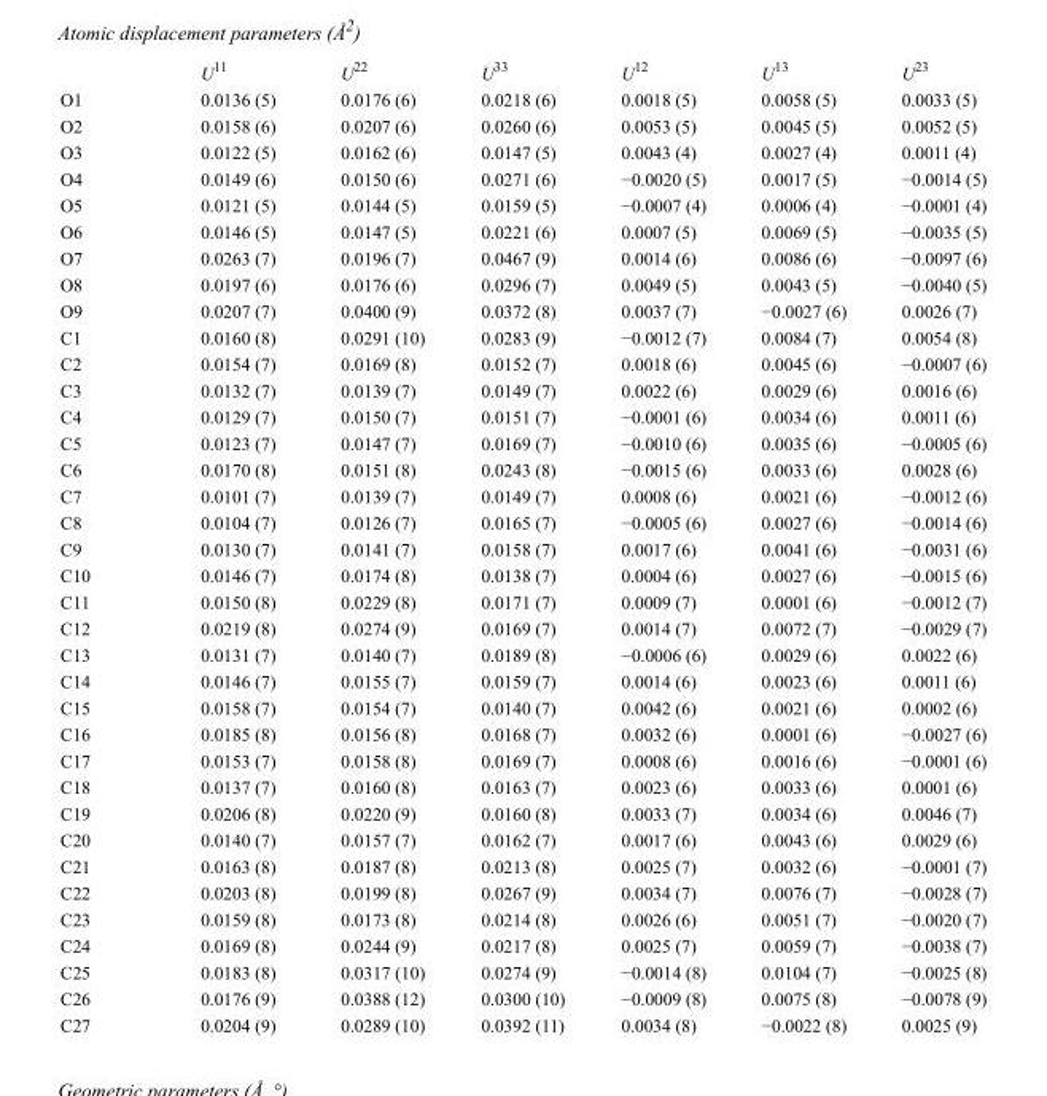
<table><thead><tr><td></td><td>U<sup>11</sup></td><td>U<sup>22</sup></td><td>U<sup>33</sup></td><td>U<sup>12</sup></td><td>U<sup>13</sup></td><td>U<sup>23</sup></td></tr></thead><tbody><tr><td>O1</td><td>0.0136 (5)</td><td>0.0176 (6)</td><td>0.0218 (6)</td><td>0.0018 (5)</td><td>0.0058 (5)</td><td>0.0033 (5)</td></tr><tr><td>O2</td><td>0.0158 (6)</td><td>0.0207 (6)</td><td>0.0260 (6)</td><td>0.0053 (5)</td><td>0.0045 (5)</td><td>0.0052 (5)</td></tr><tr><td>O3</td><td>0.0122 (5)</td><td>0.0162 (6)</td><td>0.0147 (5)</td><td>0.0043 (4)</td><td>0.0027 (4)</td><td>0.0011 (4)</td></tr><tr><td>O4</td><td>0.0149 (6)</td><td>0.0150 (6)</td><td>0.0271 (6)</td><td>−0.0020 (5)</td><td>0.0017 (5)</td><td>−0.0014 (5)</td></tr><tr><td>O5</td><td>0.0121 (5)</td><td>0.0144 (5)</td><td>0.0159 (5)</td><td>−0.0007 (4)</td><td>0.0006 (4)</td><td>−0.0001 (4)</td></tr><tr><td>O6</td><td>0.0146 (5)</td><td>0.0147 (5)</td><td>0.0221 (6)</td><td>0.0007 (5)</td><td>0.0069 (5)</td><td>−0.0035 (5)</td></tr><tr><td>O7</td><td>0.0263 (7)</td><td>0.0196 (7)</td><td>0.0467 (9)</td><td>0.0014 (6)</td><td>0.0086 (6)</td><td>−0.0097 (6)</td></tr><tr><td>O8</td><td>0.0197 (6)</td><td>0.0176 (6)</td><td>0.0296 (7)</td><td>0.0049 (5)</td><td>0.0043 (5)</td><td>−0.0040 (5)</td></tr><tr><td>O9</td><td>0.0207 (7)</td><td>0.0400 (9)</td><td>0.0372 (8)</td><td>0.0037 (7)</td><td>−0.0027 (6)</td><td>0.0026 (7)</td></tr><tr><td>C1</td><td>0.0160 (8)</td><td>0.0291 (10)</td><td>0.0283 (9)</td><td>−0.0012 (7)</td><td>0.0084 (7)</td><td>0.0054 (8)</td></tr><tr><td>C2</td><td>0.0154 (7)</td><td>0.0169 (8)</td><td>0.0152 (7)</td><td>0.0018 (6)</td><td>0.0045 (6)</td><td>−0.0007 (6)</td></tr><tr><td>C3</td><td>0.0132 (7)</td><td>0.0139 (7)</td><td>0.0149 (7)</td><td>0.0022 (6)</td><td>0.0029 (6)</td><td>0.0016 (6)</td></tr><tr><td>C4</td><td>0.0129 (7)</td><td>0.0150 (7)</td><td>0.0151 (7)</td><td>−0.0001 (6)</td><td>0.0034 (6)</td><td>0.0011 (6)</td></tr><tr><td>C5</td><td>0.0123 (7)</td><td>0.0147 (7)</td><td>0.0169 (7)</td><td>−0.0010 (6)</td><td>0.0035 (6)</td><td>−0.0005 (6)</td></tr><tr><td>C6</td><td>0.0170 (8)</td><td>0.0151 (8)</td><td>0.0243 (8)</td><td>−0.0015 (6)</td><td>0.0033 (6)</td><td>0.0028 (6)</td></tr><tr><td>C7</td><td>0.0101 (7)</td><td>0.0139 (7)</td><td>0.0149 (7)</td><td>0.0008 (6)</td><td>0.0021 (6)</td><td>−0.0012 (6)</td></tr><tr><td>C8</td><td>0.0104 (7)</td><td>0.0126 (7)</td><td>0.0165 (7)</td><td>−0.0005 (6)</td><td>0.0027 (6)</td><td>−0.0014 (6)</td></tr><tr><td>C9</td><td>0.0130 (7)</td><td>0.0141 (7)</td><td>0.0158 (7)</td><td>0.0017 (6)</td><td>0.0041 (6)</td><td>−0.0031 (6)</td></tr><tr><td>C10</td><td>0.0146 (7)</td><td>0.0174 (8)</td><td>0.0138 (7)</td><td>0.0004 (6)</td><td>0.0027 (6)</td><td>−0.0015 (6)</td></tr><tr><td>C11</td><td>0.0150 (8)</td><td>0.0229 (8)</td><td>0.0171 (7)</td><td>0.0009 (7)</td><td>0.0001 (6)</td><td>−0.0012 (7)</td></tr><tr><td>C12</td><td>0.0219 (8)</td><td>0.0274 (9)</td><td>0.0169 (7)</td><td>0.0014 (7)</td><td>0.0072 (7)</td><td>−0.0029 (7)</td></tr><tr><td>C13</td><td>0.0131 (7)</td><td>0.0140 (7)</td><td>0.0189 (8)</td><td>−0.0006 (6)</td><td>0.0029 (6)</td><td>0.0022 (6)</td></tr><tr><td>C14</td><td>0.0146 (7)</td><td>0.0155 (7)</td><td>0.0159 (7)</td><td>0.0014 (6)</td><td>0.0023 (6)</td><td>0.0011 (6)</td></tr><tr><td>C15</td><td>0.0158 (7)</td><td>0.0154 (7)</td><td>0.0140 (7)</td><td>0.0042 (6)</td><td>0.0021 (6)</td><td>0.0002 (6)</td></tr><tr><td>C16</td><td>0.0185 (8)</td><td>0.0156 (8)</td><td>0.0168 (7)</td><td>0.0032 (6)</td><td>0.0001 (6)</td><td>−0.0027 (6)</td></tr><tr><td>C17</td><td>0.0153 (7)</td><td>0.0158 (8)</td><td>0.0169 (7)</td><td>0.0008 (6)</td><td>0.0016 (6)</td><td>−0.0001 (6)</td></tr><tr><td>C18</td><td>0.0137 (7)</td><td>0.0160 (8)</td><td>0.0163 (7)</td><td>0.0023 (6)</td><td>0.0033 (6)</td><td>0.0001 (6)</td></tr><tr><td>C19</td><td>0.0206 (8)</td><td>0.0220 (9)</td><td>0.0160 (8)</td><td>0.0033 (7)</td><td>0.0034 (6)</td><td>0.0046 (7)</td></tr><tr><td>C20</td><td>0.0140 (7)</td><td>0.0157 (7)</td><td>0.0162 (7)</td><td>0.0017 (6)</td><td>0.0043 (6)</td><td>0.0029 (6)</td></tr><tr><td>C21</td><td>0.0163 (8)</td><td>0.0187 (8)</td><td>0.0213 (8)</td><td>0.0025 (7)</td><td>0.0032 (6)</td><td>−0.0001 (7)</td></tr><tr><td>C22</td><td>0.0203 (8)</td><td>0.0199 (8)</td><td>0.0267 (9)</td><td>0.0034 (7)</td><td>0.0076 (7)</td><td>−0.0028 (7)</td></tr><tr><td>C23</td><td>0.0159 (8)</td><td>0.0173 (8)</td><td>0.0214 (8)</td><td>0.0026 (6)</td><td>0.0051 (7)</td><td>−0.0020 (7)</td></tr><tr><td>C24</td><td>0.0169 (8)</td><td>0.0244 (9)</td><td>0.0217 (8)</td><td>0.0025 (7)</td><td>0.0059 (7)</td><td>−0.0038 (7)</td></tr><tr><td>C25</td><td>0.0183 (8)</td><td>0.0317 (10)</td><td>0.0274 (9)</td><td>−0.0014 (8)</td><td>0.0104 (7)</td><td>−0.0025 (8)</td></tr><tr><td>C26</td><td>0.0176 (9)</td><td>0.0388 (12)</td><td>0.0300 (10)</td><td>−0.0009 (8)</td><td>0.0075 (8)</td><td>−0.0078 (9)</td></tr><tr><td>C27</td><td>0.0204 (9)</td><td>0.0289 (10)</td><td>0.0392 (11)</td><td>0.0034 (8)</td><td>−0.0022 (8)</td><td>0.0025 (9)</td></tr></tbody></table>